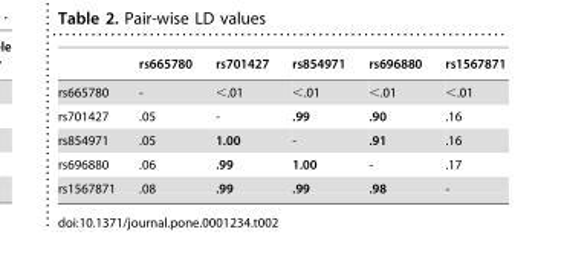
<table><thead><tr><td></td><td>rs665780</td><td>rs701427</td><td>rs854971</td><td>rs696880</td><td>rs1567871</td></tr></thead><tbody><tr><td>rs665780</td><td>-</td><td>&lt;.01</td><td>&lt;.01</td><td>&lt;.01</td><td>&lt;.01</td></tr><tr><td>rs701427</td><td>.05</td><td>-</td><td>.99</td><td>.90</td><td>.16</td></tr><tr><td>rs854971</td><td>.05</td><td>1.00</td><td>-</td><td>.91</td><td>.16</td></tr><tr><td>rs696880</td><td>.06</td><td>.99</td><td>1.00</td><td>-</td><td>.17</td></tr><tr><td>rs1567871</td><td>.08</td><td>.99</td><td>.99</td><td>.98</td><td>-</td></tr></tbody></table>